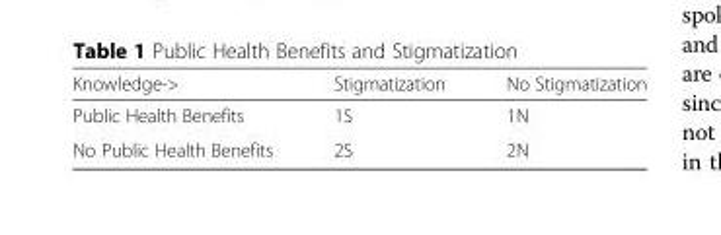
<table><thead><tr><td>Knowledge-&gt;</td><td>Stigmatization</td><td>No Stigmatization</td></tr></thead><tbody><tr><td>Public Health Benefits</td><td>1S</td><td>1N</td></tr><tr><td>No Public Health Benefits</td><td>2S</td><td>2N</td></tr></tbody></table>